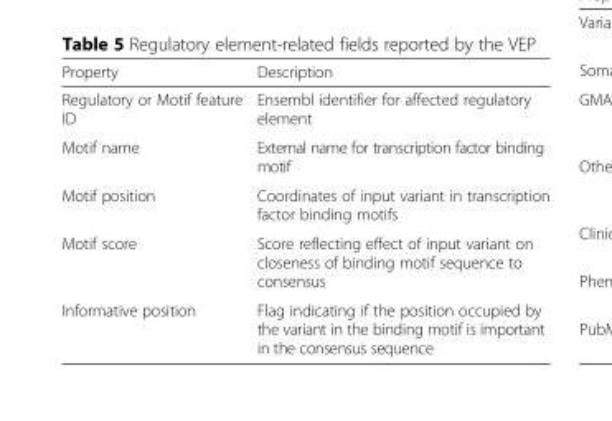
<table><thead><tr><td>Property</td><td>Description</td></tr></thead><tbody><tr><td>Regulatory or Motif feature ID</td><td>Ensembl identifier for affected regulatory element</td></tr><tr><td>Motif name</td><td>External name for transcription factor binding motif</td></tr><tr><td>Motif position</td><td>Coordinates of input variant in transcription factor binding motifs</td></tr><tr><td>Motif score</td><td>Score reflecting effect of input variant on closeness of binding motif sequence to consensus</td></tr><tr><td>Informative position</td><td>Flag indicating if the position occupied by the variant in the binding motif is important in the consensus sequence</td></tr></tbody></table>